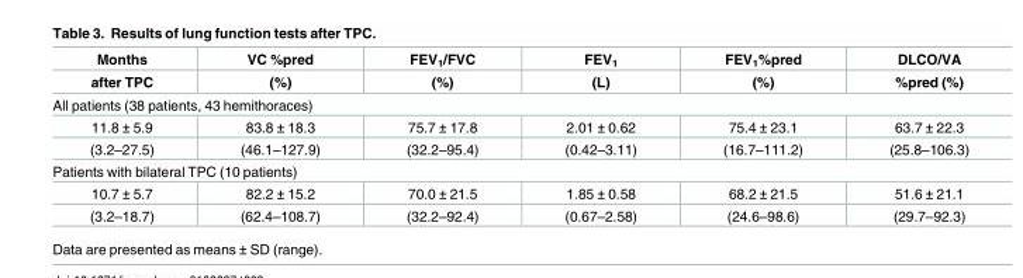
<table><thead><tr><td rowspan="2">Months after TPC</td><td rowspan="2">VC %pred (%)</td><td rowspan="2">FEV<sub>1</sub>/FVC (%)</td><td rowspan="2">FEV<sub>1</sub> (L)</td><td rowspan="2">FEV<sub>1</sub>%pred (%)</td><td rowspan="2">DLCO/VA %pred (%)</td></tr><tr></tr></thead><tbody><tr><td colspan="6">All patients (38 patients, 43 hemithoraces)</td></tr><tr><td>11.8 ± 5.9</td><td>83.8 ± 18.3</td><td>75.7 ± 17.8</td><td>2.01 ± 0.62</td><td>75.4 ± 23.1</td><td>63.7 ± 22.3</td></tr><tr><td>(3.2–27.5)</td><td>(46.1–127.9)</td><td>(32.2–95.4)</td><td>(0.42–3.11)</td><td>(16.7–111.2)</td><td>(25.8–106.3)</td></tr><tr><td colspan="6">Patients with bilateral TPC (10 patients)</td></tr><tr><td>10.7 ± 5.7</td><td>82.2 ± 15.2</td><td>70.0 ± 21.5</td><td>1.85 ± 0.58</td><td>68.2 ± 21.5</td><td>51.6 ± 21.1</td></tr><tr><td>(3.2–18.7)</td><td>(62.4–108.7)</td><td>(32.2–92.4)</td><td>(0.67–2.58)</td><td>(24.6–98.6)</td><td>(29.7–92.3)</td></tr></tbody></table>